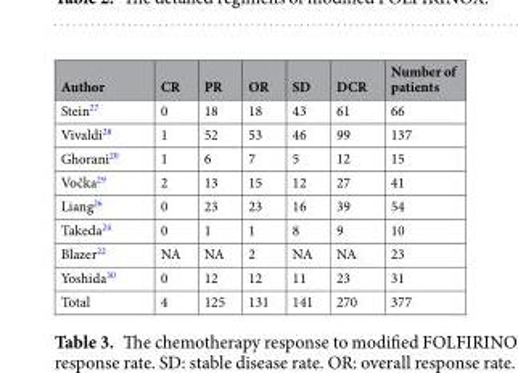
<table><thead><tr><td>Author</td><td>CR</td><td>PR</td><td>OR</td><td>SD</td><td>DCR</td><td>Number of patients</td></tr></thead><tbody><tr><td>Stein<sup>27</sup></td><td>0</td><td>18</td><td>18</td><td>43</td><td>61</td><td>66</td></tr><tr><td>Vivaldi<sup>28</sup></td><td>1</td><td>52</td><td>53</td><td>46</td><td>99</td><td>137</td></tr><tr><td>Ghorani<sup>20</sup></td><td>1</td><td>6</td><td>7</td><td>5</td><td>12</td><td>15</td></tr><tr><td>Vočka<sup>29</sup></td><td>2</td><td>13</td><td>15</td><td>12</td><td>27</td><td>41</td></tr><tr><td>Liang<sup>26</sup></td><td>0</td><td>23</td><td>23</td><td>16</td><td>39</td><td>54</td></tr><tr><td>Takeda<sup>24</sup></td><td>0</td><td>1</td><td>1</td><td>8</td><td>9</td><td>10</td></tr><tr><td>Blazer<sup>22</sup></td><td>NA</td><td>NA</td><td>2</td><td>NA</td><td>NA</td><td>23</td></tr><tr><td>Yoshida<sup>30</sup></td><td>0</td><td>12</td><td>12</td><td>11</td><td>23</td><td>31</td></tr><tr><td>Total</td><td>4</td><td>125</td><td>131</td><td>141</td><td>270</td><td>377</td></tr></tbody></table>